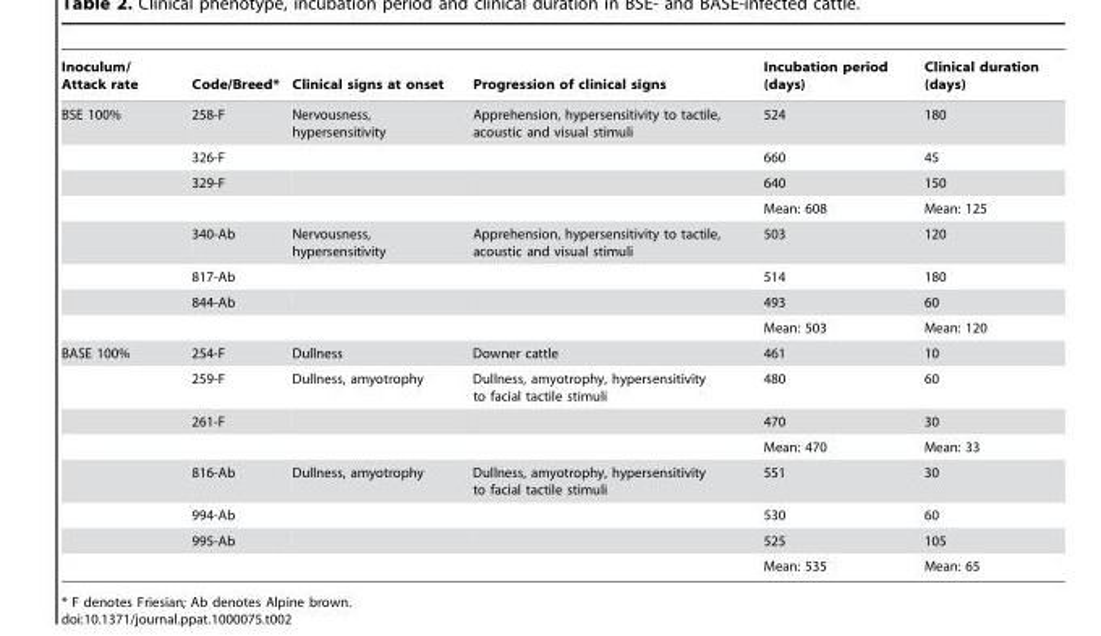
<table><thead><tr><td>Inoculum/ Attack rate</td><td>Code/Breed*</td><td>Clinical signs at onset</td><td>Progression of clinical signs</td><td>Incubation period (days)</td><td>Clinical duration (days)</td></tr></thead><tbody><tr><td rowspan="8">BSE 100%</td><td>258-F</td><td>Nervousness, hypersensitivity</td><td>Apprehension, hypersensitivity to tactile, acoustic and visual stimuli</td><td>524</td><td>180</td></tr><tr><td>326-F</td><td></td><td></td><td>660</td><td>45</td></tr><tr><td>329-F</td><td></td><td></td><td>640</td><td>150</td></tr><tr><td></td><td></td><td></td><td>Mean: 608</td><td>Mean: 125</td></tr><tr><td>340-Ab</td><td>Nervousness, hypersensitivity</td><td>Apprehension, hypersensitivity to tactile, acoustic and visual stimuli</td><td>503</td><td>120</td></tr><tr><td>817-Ab</td><td></td><td></td><td>514</td><td>180</td></tr><tr><td>844-Ab</td><td></td><td></td><td>493</td><td>60</td></tr><tr><td></td><td></td><td></td><td>Mean: 503</td><td>Mean: 120</td></tr><tr><td rowspan="8">BASE 100%</td><td>254-F</td><td>Dullness</td><td>Downer cattle</td><td>461</td><td>10</td></tr><tr><td>259-F</td><td>Dullness, amyotrophy</td><td>Dullness, amyotrophy, hypersensitivity to facial tactile stimuli</td><td>480</td><td>60</td></tr><tr><td>261-F</td><td></td><td></td><td>470</td><td>30</td></tr><tr><td></td><td></td><td></td><td>Mean: 470</td><td>Mean: 33</td></tr><tr><td>816-Ab</td><td>Dullness, amyotrophy</td><td>Dullness, amyotrophy, hypersensitivity to facial tactile stimuli</td><td>551</td><td>30</td></tr><tr><td>994-Ab</td><td></td><td></td><td>530</td><td>60</td></tr><tr><td>995-Ab</td><td></td><td></td><td>525</td><td>105</td></tr><tr><td></td><td></td><td></td><td>Mean: 535</td><td>Mean: 65</td></tr></tbody></table>